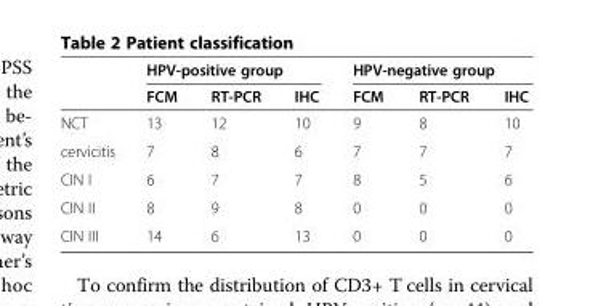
<table><thead><tr><td rowspan="2"></td><td colspan="3">HPV-positive group</td><td colspan="3">HPV-negative group</td></tr><tr><td>FCM</td><td>RT-PCR</td><td>IHC</td><td>FCM</td><td>RT-PCR</td><td>IHC</td></tr></thead><tbody><tr><td>NCT</td><td>13</td><td>12</td><td>10</td><td>9</td><td>8</td><td>10</td></tr><tr><td>cervicitis</td><td>7</td><td>8</td><td>6</td><td>7</td><td>7</td><td>7</td></tr><tr><td>CIN I</td><td>6</td><td>7</td><td>7</td><td>8</td><td>5</td><td>6</td></tr><tr><td>CIN II</td><td>8</td><td>9</td><td>8</td><td>0</td><td>0</td><td>0</td></tr><tr><td>CIN III</td><td>14</td><td>6</td><td>13</td><td>0</td><td>0</td><td>0</td></tr></tbody></table>